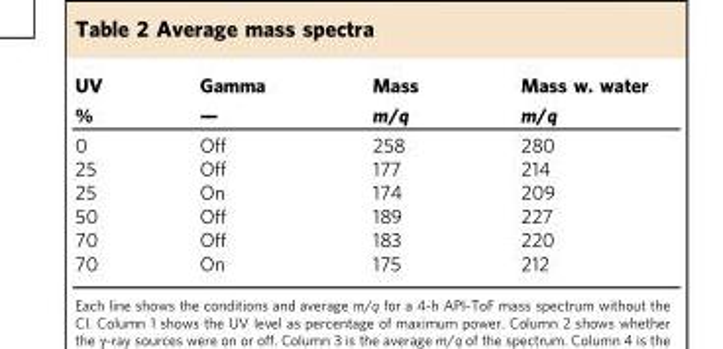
<table><thead><tr><td rowspan="2">UV %</td><td rowspan="2">Gamma —</td><td rowspan="2">Mass m/q</td><td rowspan="2">Mass w. water m/q</td></tr><tr></tr></thead><tbody><tr><td>0</td><td>Off</td><td>258</td><td>280</td></tr><tr><td>25</td><td>Off</td><td>177</td><td>214</td></tr><tr><td>25</td><td>On</td><td>174</td><td>209</td></tr><tr><td>50</td><td>Off</td><td>189</td><td>227</td></tr><tr><td>70</td><td>Off</td><td>183</td><td>220</td></tr><tr><td>70</td><td>On</td><td>175</td><td>212</td></tr></tbody></table>